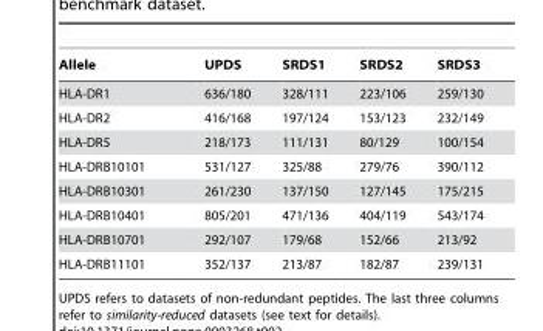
<table><thead><tr><td>Allele</td><td>UPDS</td><td>SRDS1</td><td>SRDS2</td><td>SRDS3</td></tr></thead><tbody><tr><td>HLA-DR1</td><td>636/180</td><td>328/111</td><td>223/106</td><td>259/130</td></tr><tr><td>HLA-DR2</td><td>416/168</td><td>197/124</td><td>153/123</td><td>232/149</td></tr><tr><td>HLA-DR5</td><td>218/173</td><td>111/131</td><td>80/129</td><td>100/154</td></tr><tr><td>HLA-DRB10101</td><td>531/127</td><td>325/88</td><td>279/76</td><td>390/112</td></tr><tr><td>HLA-DRB10301</td><td>261/230</td><td>137/150</td><td>127/145</td><td>175/215</td></tr><tr><td>HLA-DRB10401</td><td>805/201</td><td>471/136</td><td>404/119</td><td>543/174</td></tr><tr><td>HLA-DRB10701</td><td>292/107</td><td>179/68</td><td>152/66</td><td>213/92</td></tr><tr><td>HLA-DRB11101</td><td>352/137</td><td>213/87</td><td>182/87</td><td>239/131</td></tr></tbody></table>